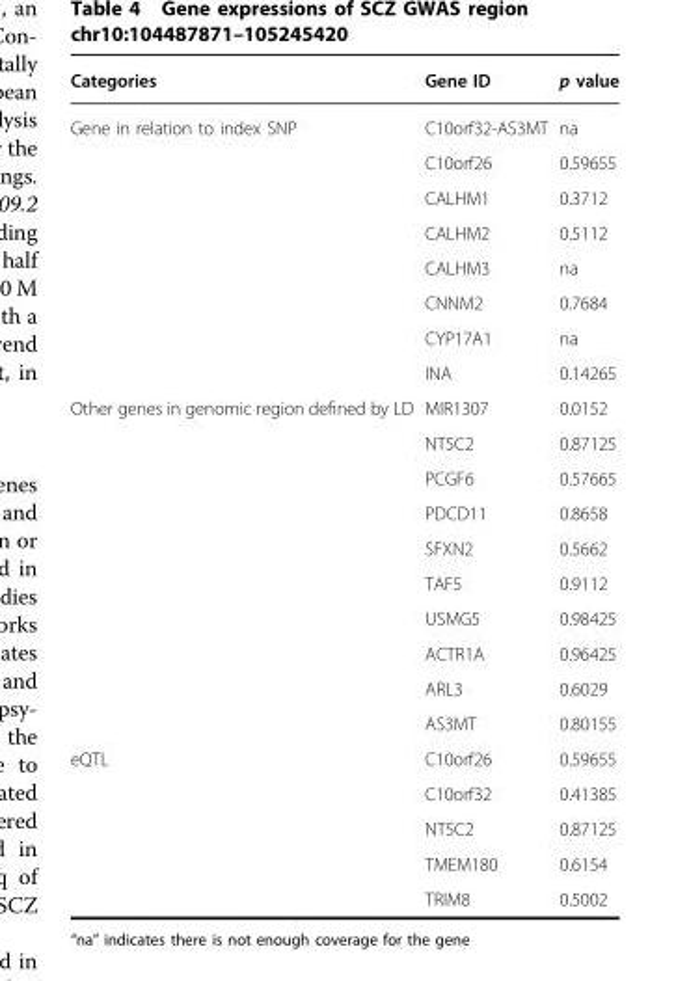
<table><thead><tr><td>Categories</td><td>Gene ID</td><td>p value</td></tr></thead><tbody><tr><td rowspan="8">Gene in relation to index SNP</td><td>C10orf32-AS3MT</td><td>na</td></tr><tr><td>C10orf26</td><td>0.59655</td></tr><tr><td>CALHM1</td><td>0.3712</td></tr><tr><td>CALHM2</td><td>0.5112</td></tr><tr><td>CALHM3</td><td>na</td></tr><tr><td>CNNM2</td><td>0.7684</td></tr><tr><td>CYP17A1</td><td>na</td></tr><tr><td>INA</td><td>0.14265</td></tr><tr><td rowspan="10">Other genes in genomic region defined by LD</td><td>MIR1307</td><td>0.0152</td></tr><tr><td>NT5C2</td><td>0.87125</td></tr><tr><td>PCGF6</td><td>0.57665</td></tr><tr><td>PDCD11</td><td>0.8658</td></tr><tr><td>SFXN2</td><td>0.5662</td></tr><tr><td>TAF5</td><td>0.9112</td></tr><tr><td>USMG5</td><td>0.98425</td></tr><tr><td>ACTR1A</td><td>0.96425</td></tr><tr><td>ARL3</td><td>0.6029</td></tr><tr><td>AS3MT</td><td>0.80155</td></tr><tr><td rowspan="5">eQTL</td><td>C10orf26</td><td>0.59655</td></tr><tr><td>C10orf32</td><td>0.41385</td></tr><tr><td>NT5C2</td><td>0.87125</td></tr><tr><td>TMEM180</td><td>0.6154</td></tr><tr><td>TRIM8</td><td>0.5002</td></tr></tbody></table>